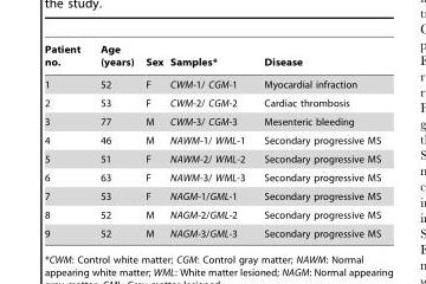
<table><thead><tr><td>Patient no.</td><td>Age (years)</td><td>Sex</td><td>Samples*</td><td>Disease</td></tr></thead><tbody><tr><td>1</td><td>52</td><td>F</td><td>CWM-1/ CGM-1</td><td>Myocardial infraction</td></tr><tr><td>2</td><td>53</td><td>F</td><td>CWM-2/ CGM-2</td><td>Cardiac thrombosis</td></tr><tr><td>3</td><td>77</td><td>M</td><td>CWM-3/ CGM-3</td><td>Mesenteric bleeding</td></tr><tr><td>4</td><td>46</td><td>M</td><td>NAWM-1/ WML-1</td><td>Secondary progressive MS</td></tr><tr><td>5</td><td>51</td><td>F</td><td>NAWM-2/ WML-2</td><td>Secondary progressive MS</td></tr><tr><td>6</td><td>63</td><td>F</td><td>NAWM-3/ WML-3</td><td>Secondary progressive MS</td></tr><tr><td>7</td><td>53</td><td>F</td><td>NAGM-1/GML-1</td><td>Secondary progressive MS</td></tr><tr><td>8</td><td>52</td><td>M</td><td>NAGM-2/GML-2</td><td>Secondary progressive MS</td></tr><tr><td>9</td><td>52</td><td>M</td><td>NAGM-3/GML-3</td><td>Secondary progressive MS</td></tr></tbody></table>